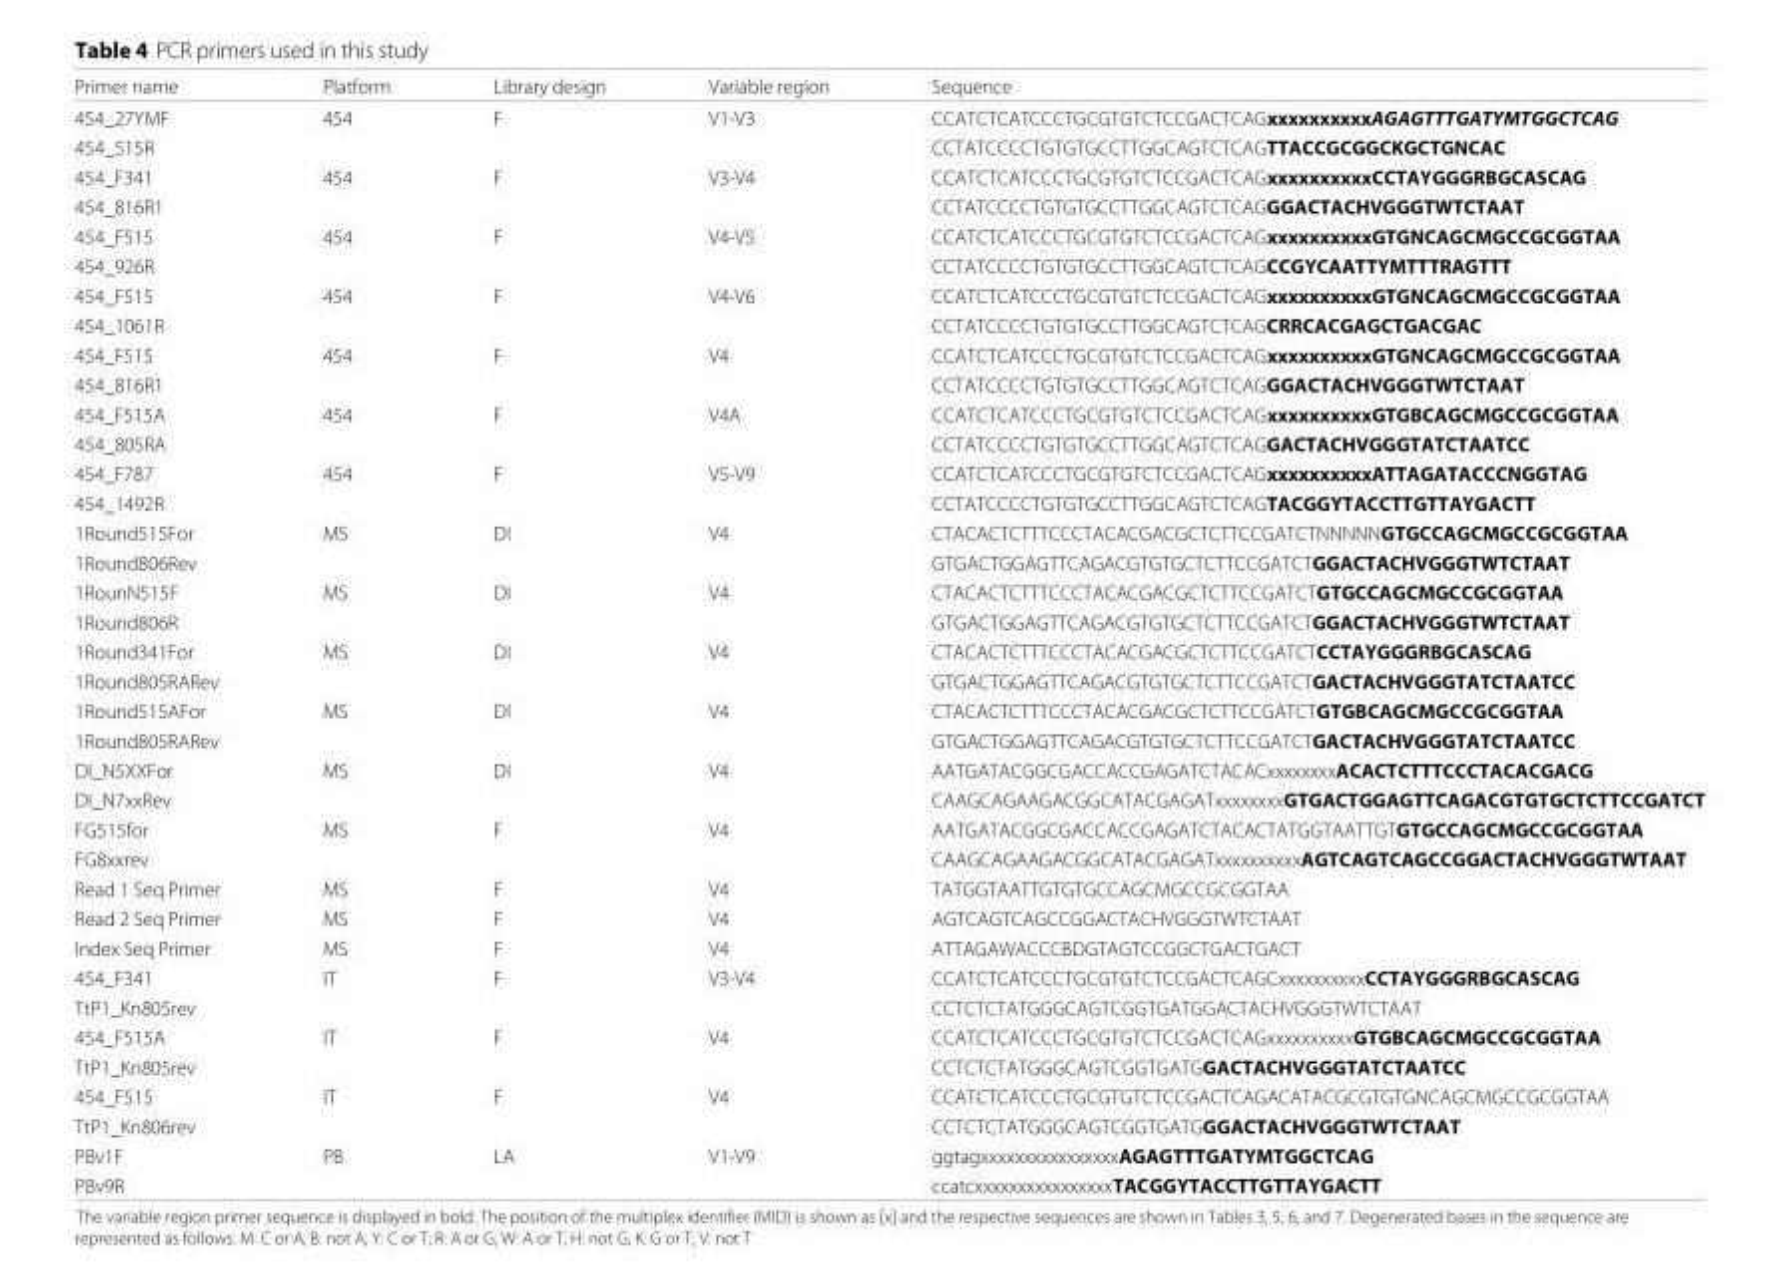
<table><thead><tr><td>Primer name</td><td>Platform</td><td>Library design</td><td>Variable region</td><td>Sequence</td></tr></thead><tbody><tr><td>454_27YMF</td><td>454</td><td>F</td><td>V1-V3</td><td>CCATCTCATCCCTGCGTGTCTCCGACTCAGxxxxxxxxxxAGAGTTTGATYMTGGCTCAG</td></tr><tr><td>454_515R</td><td></td><td></td><td></td><td>CCTATCCCCTGTGTGCCTTGGCAGTCTCAGTTACCGCGGCKGCTGNCAC</td></tr><tr><td>454_F341</td><td>454</td><td>F</td><td>V3-V4</td><td>CCATCTCATCCCTGCGTGTCTCCGACTCAGxxxxxxxxxxCCTAYGGGRBGCASCAG</td></tr><tr><td>454_816R1</td><td></td><td></td><td></td><td>CCTATCCCCTGTGTGCCTTGGCAGTCTCAGGGACTACHVGGGTWTCTAAT</td></tr><tr><td>454_F515</td><td>454</td><td>F</td><td>V4-V5</td><td>CCATCTCATCCCTGCGTGTCTCCGACTCAGxxxxxxxxxxGTGNCAGCMGCCGCGGTAA</td></tr><tr><td>454_926R</td><td></td><td></td><td></td><td>CCTATCCCCTGTGTGCCTTGGCAGTCTCAGCCGYCAATTYMTTTRAGTTT</td></tr><tr><td>454_F515</td><td>454</td><td>F</td><td>V4-V6</td><td>CCATCTCATCCCTGCGTGTCTCCGACTCAGxxxxxxxxxxGTGNCAGCMGCCGCGGTAA</td></tr><tr><td>454_1061R</td><td></td><td></td><td></td><td>CCTATCCCCTGTGTGCCTTGGCAGTCTCAGCRRCACGAGCTGACGAC</td></tr><tr><td>454_F515</td><td>454</td><td>F</td><td>V4</td><td>CCATCTCATCCCTGCGTGTCTCCGACTCAGxxxxxxxxxxGTGNCAGCMGCCGCGGTAA</td></tr><tr><td>454_816R1</td><td></td><td></td><td></td><td>CCTATCCCCTGTGTGCCTTGGCAGTCTCAGGGACTACHVGGGTWTCTAAT</td></tr><tr><td>454_F515A</td><td>454</td><td>F</td><td>V4A</td><td>CCATCTCATCCCTGCGTGTCTCCGACTCAGxxxxxxxxxxGTGBCAGCMGCCGCGGTAA</td></tr><tr><td>454_805RA</td><td></td><td></td><td></td><td>CCTATCCCCTGTGTGCCTTGGCAGTCTCAGGACTACHVGGGTATCTAATCC</td></tr><tr><td>454_F787</td><td>454</td><td>F</td><td>V5-V9</td><td>CCATCTCATCCCTGCGTGTCTCCGACTCAGxxxxxxxxxxATTAGATACCCNGGTAG</td></tr><tr><td>454_1492R</td><td></td><td></td><td></td><td>CCTATCCCCTGTGTGCCTTGGCAGTCTCAGTACGGYTACCTTGTTAYGACTT</td></tr><tr><td>1Round515For</td><td>MS</td><td>DI</td><td>V4</td><td>CTACACTCTTTCCCTACACGACGCTCTTCCGATCTNNNNNGTGCCAGCMGCCGCGGTAA</td></tr><tr><td>1Round806Rev</td><td></td><td></td><td></td><td>GTGACTGGAGTTCAGACGTGTGCTCTTCCGATCTGGACTACHVGGGTWTCTAAT</td></tr><tr><td>1RounN515F</td><td>MS</td><td>DI</td><td>V4</td><td>CTACACTCTTTCCCTACACGACGCTCTTCCGATCTGTGCCAGCMGCCGCGGTAA</td></tr><tr><td>1Round806R</td><td></td><td></td><td></td><td>GTGACTGGAGTTCAGACGTGTGCTCTTCCGATCTGGACTACHVGGGTWTCTAAT</td></tr><tr><td>1Round341For</td><td>MS</td><td>DI</td><td>V4</td><td>CTACACTCTTTCCCTACACGACGCTCTTCCGATCTCCTAYGGGRBGCASCAG</td></tr><tr><td>1Round805RARev</td><td></td><td></td><td></td><td>GTGACTGGAGTTCAGACGTGTGCTCTTCCGATCTGACTACHVGGGTATCTAATCC</td></tr><tr><td>1Round515AFor</td><td>MS</td><td>DI</td><td>V4</td><td>CTACACTCTTTCCCTACACGACGCTCTTCCGATCTGTGBCAGCMGCCGCGGTAA</td></tr><tr><td>1Round805RARev</td><td></td><td></td><td></td><td>GTGACTGGAGTTCAGACGTGTGCTCTTCCGATCTGACTACHVGGGTATCTAATCC</td></tr><tr><td>DI_N5XXFor</td><td>MS</td><td>DI</td><td>V4</td><td>AATGATACGGCGACCACCGAGATCTACACxxxxxxxxACACTCTTTCCCTACACGACG</td></tr><tr><td>DI_N7xxRev</td><td></td><td></td><td></td><td>CAAGCAGAAGACGGCATACGAGATxxxxxxxxGTGACTGGAGTTCAGACGTGTGCTCTTCCGATCT</td></tr><tr><td>FG515for</td><td>MS</td><td>F</td><td>V4</td><td>AATGATACGGCGACCACCGAGATCTACACTATGGTAATTGTGTGCCAGCMGCCGCGGTAA</td></tr><tr><td>FG8xxrev</td><td></td><td></td><td></td><td>CAAGCAGAAGACGGCATACGAGATxxxxxxxxxxAGTCAGTCAGCCGGACTACHVGGGTWTAAT</td></tr><tr><td>Read 1 Seq Primer</td><td>MS</td><td>F</td><td>V4</td><td>TATGGTAATTGTGTGCCAGCMGCCGCGGTAA</td></tr><tr><td>Read 2 Seq Primer</td><td>MS</td><td>F</td><td>V4</td><td>AGTCAGTCAGCCGGACTACHVGGGTWTCTAAT</td></tr><tr><td>Index Seq Primer</td><td>MS</td><td>F</td><td>V4</td><td>ATTAGAWACCCBDGTAGTCCGGCTGACTGACT</td></tr><tr><td>454_F341</td><td>IT</td><td>F</td><td>V3-V4</td><td>CCATCTCATCCCTGCGTGTCTCCGACTCAGCxxxxxxxxxxCCTAYGGGRBGCASCAG</td></tr><tr><td>TtP1_Kn805rev</td><td></td><td></td><td></td><td>CCTCTCTATGGGCAGTCGGTGATGGACTACHVGGGTWTCTAAT</td></tr><tr><td>454_F515A</td><td>IT</td><td>F</td><td>V4</td><td>CCATCTCATCCCTGCGTGTCTCCGACTCAGxxxxxxxxxxGTGBCAGCMGCCGCGGTAA</td></tr><tr><td>TtP1_Kn805rev</td><td></td><td></td><td></td><td>CCTCTCTATGGGCAGTCGGTGATGGACTACHVGGGTATCTAATCC</td></tr><tr><td>454_F515</td><td>IT</td><td>F</td><td>V4</td><td>CCATCTCATCCCTGCGTGTCTCCGACTCAGACATACGCGTGTGNCAGCMGCCGCGGTAA</td></tr><tr><td>TtP1_Kn806rev</td><td></td><td></td><td></td><td>CCTCTCTATGGGCAGTCGGTGATGGGACTACHVGGGTWTCTAAT</td></tr><tr><td>PBv1F</td><td>PB</td><td>LA</td><td>V1-V9</td><td>ggtagxxxxxxxxxxxxxxxxAGAGTTTGATYMTGGCTCAG</td></tr><tr><td>PBv9R</td><td></td><td></td><td></td><td>ccatcxxxxxxxxxxxxxxxxTACGGYTACCTTGTTAYGACTT</td></tr></tbody></table>